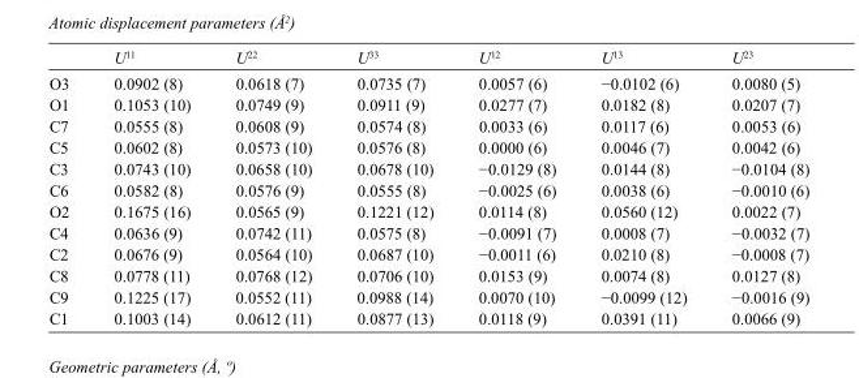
<table><thead><tr><td></td><td>U<sup>11</sup></td><td>U<sup>22</sup></td><td>U<sup>33</sup></td><td>U<sup>12</sup></td><td>U<sup>13</sup></td><td>U<sup>23</sup></td></tr></thead><tbody><tr><td>O3</td><td>0.0902 (8)</td><td>0.0618 (7)</td><td>0.0735 (7)</td><td>0.0057 (6)</td><td>−0.0102 (6)</td><td>0.0080 (5)</td></tr><tr><td>O1</td><td>0.1053 (10)</td><td>0.0749 (9)</td><td>0.0911 (9)</td><td>0.0277 (7)</td><td>0.0182 (8)</td><td>0.0207 (7)</td></tr><tr><td>C7</td><td>0.0555 (8)</td><td>0.0608 (9)</td><td>0.0574 (8)</td><td>0.0033 (6)</td><td>0.0117 (6)</td><td>0.0053 (6)</td></tr><tr><td>C5</td><td>0.0602 (8)</td><td>0.0573 (10)</td><td>0.0576 (8)</td><td>0.0000 (6)</td><td>0.0046 (7)</td><td>0.0042 (6)</td></tr><tr><td>C3</td><td>0.0743 (10)</td><td>0.0658 (10)</td><td>0.0678 (10)</td><td>−0.0129 (8)</td><td>0.0144 (8)</td><td>−0.0104 (8)</td></tr><tr><td>C6</td><td>0.0582 (8)</td><td>0.0576 (9)</td><td>0.0555 (8)</td><td>−0.0025 (6)</td><td>0.0038 (6)</td><td>−0.0010 (6)</td></tr><tr><td>O2</td><td>0.1675 (16)</td><td>0.0565 (9)</td><td>0.1221 (12)</td><td>0.0114 (8)</td><td>0.0560 (12)</td><td>0.0022 (7)</td></tr><tr><td>C4</td><td>0.0636 (9)</td><td>0.0742 (11)</td><td>0.0575 (8)</td><td>−0.0091 (7)</td><td>0.0008 (7)</td><td>−0.0032 (7)</td></tr><tr><td>C2</td><td>0.0676 (9)</td><td>0.0564 (10)</td><td>0.0687 (10)</td><td>−0.0011 (6)</td><td>0.0210 (8)</td><td>−0.0008 (7)</td></tr><tr><td>C8</td><td>0.0778 (11)</td><td>0.0768 (12)</td><td>0.0706 (10)</td><td>0.0153 (9)</td><td>0.0074 (8)</td><td>0.0127 (8)</td></tr><tr><td>C9</td><td>0.1225 (17)</td><td>0.0552 (11)</td><td>0.0988 (14)</td><td>0.0070 (10)</td><td>−0.0099 (12)</td><td>−0.0016 (9)</td></tr><tr><td>C1</td><td>0.1003 (14)</td><td>0.0612 (11)</td><td>0.0877 (13)</td><td>0.0118 (9)</td><td>0.0391 (11)</td><td>0.0066 (9)</td></tr></tbody></table>